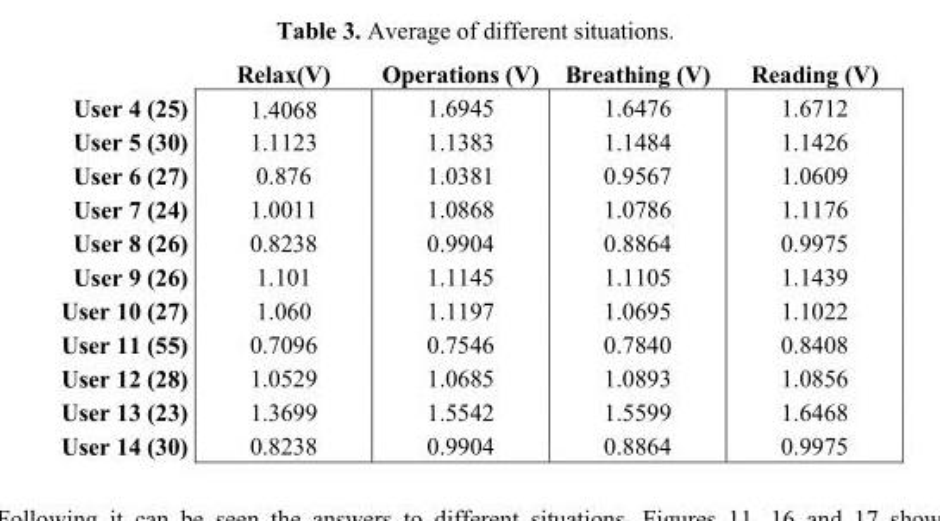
<table><thead><tr><td></td><td>Relax(V)</td><td>Operations (V)</td><td>Breathing (V)</td><td>Reading (V)</td></tr></thead><tbody><tr><td>User 4 (25)</td><td>1.4068</td><td>1.6945</td><td>1.6476</td><td>1.6712</td></tr><tr><td>User 5 (30)</td><td>1.1123</td><td>1.1383</td><td>1.1484</td><td>1.1426</td></tr><tr><td>User 6 (27)</td><td>0.876</td><td>1.0381</td><td>0.9567</td><td>1.0609</td></tr><tr><td>User 7 (24)</td><td>1.0011</td><td>1.0868</td><td>1.0786</td><td>1.1176</td></tr><tr><td>User 8 (26)</td><td>0.8238</td><td>0.9904</td><td>0.8864</td><td>0.9975</td></tr><tr><td>User 9 (26)</td><td>1.101</td><td>1.1145</td><td>1.1105</td><td>1.1439</td></tr><tr><td>User 10 (27)</td><td>1.060</td><td>1.1197</td><td>1.0695</td><td>1.1022</td></tr><tr><td>User 11 (55)</td><td>0.7096</td><td>0.7546</td><td>0.7840</td><td>0.8408</td></tr><tr><td>User 12 (28)</td><td>1.0529</td><td>1.0685</td><td>1.0893</td><td>1.0856</td></tr><tr><td>User 13 (23)</td><td>1.3699</td><td>1.5542</td><td>1.5599</td><td>1.6468</td></tr><tr><td>User 14 (30)</td><td>0.8238</td><td>0.9904</td><td>0.8864</td><td>0.9975</td></tr></tbody></table>